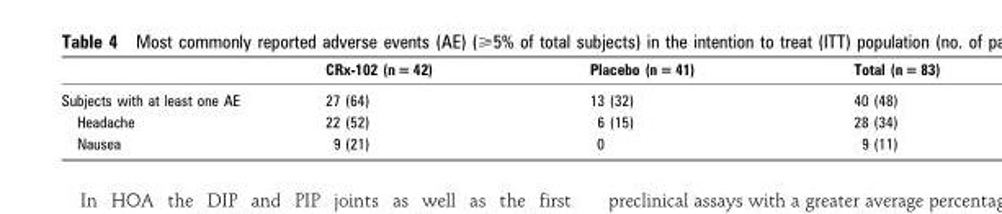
<table><thead><tr><td></td><td>CRx-102 (n = 42)</td><td>Placebo (n = 41)</td><td>Total (n = 83)</td></tr></thead><tbody><tr><td>Subjects with at least one AE</td><td>27 (64)</td><td>13 (32)</td><td>40 (48)</td></tr><tr><td>Headache</td><td>22 (52)</td><td>6 (15)</td><td>28 (34)</td></tr><tr><td>Nausea</td><td>9 (21)</td><td>0</td><td>9 (11)</td></tr></tbody></table>